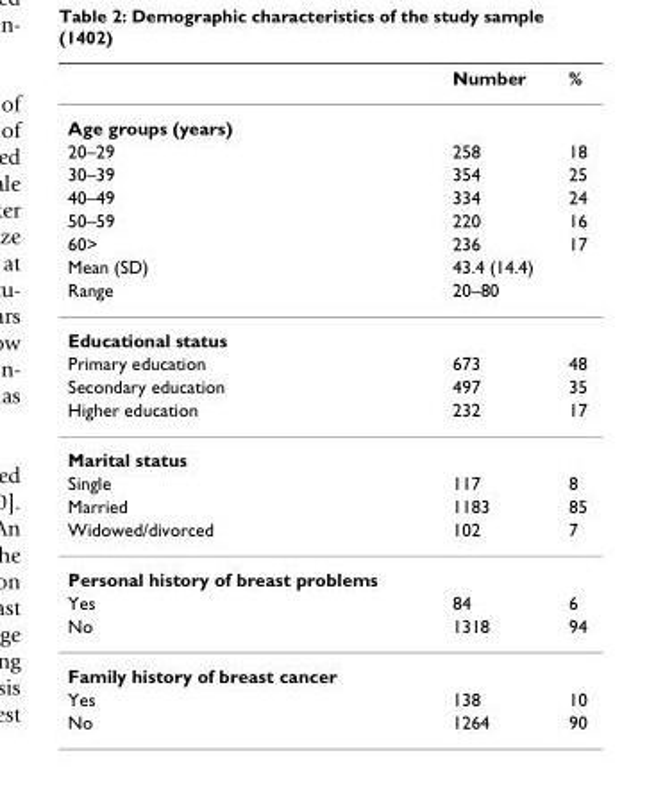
<table><thead><tr><td></td><td>Number</td><td>%</td></tr></thead><tbody><tr><td colspan="3">Age groups (years)</td></tr><tr><td>20–29</td><td>258</td><td>18</td></tr><tr><td>30–39</td><td>354</td><td>25</td></tr><tr><td>40–49</td><td>334</td><td>24</td></tr><tr><td>50–59</td><td>220</td><td>16</td></tr><tr><td>60&gt;</td><td>236</td><td>17</td></tr><tr><td>Mean (SD)</td><td>43.4 (14.4)</td><td></td></tr><tr><td>Range</td><td>20–80</td><td></td></tr><tr><td colspan="3">Educational status</td></tr><tr><td>Primary education</td><td>673</td><td>48</td></tr><tr><td>Secondary education</td><td>497</td><td>35</td></tr><tr><td>Higher education</td><td>232</td><td>17</td></tr><tr><td colspan="3">Marital status</td></tr><tr><td>Single</td><td>117</td><td>8</td></tr><tr><td>Married</td><td>1183</td><td>85</td></tr><tr><td>Widowed/divorced</td><td>102</td><td>7</td></tr><tr><td colspan="3">Personal history of breast problems</td></tr><tr><td>Yes</td><td>84</td><td>6</td></tr><tr><td>No</td><td>1318</td><td>94</td></tr><tr><td colspan="3">Family history of breast cancer</td></tr><tr><td>Yes</td><td>138</td><td>10</td></tr><tr><td>No</td><td>1264</td><td>90</td></tr></tbody></table>